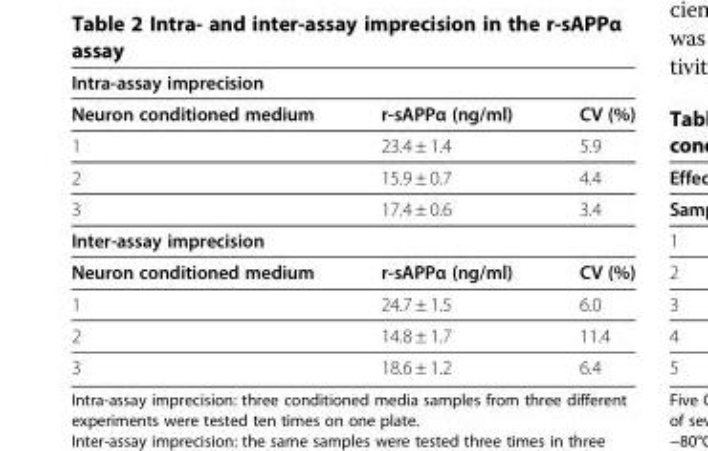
<table><thead><tr><td colspan="3">Intra-assay imprecision</td></tr><tr><td>Neuron conditioned medium</td><td>r-sAPPα (ng/ml)</td><td>CV (%)</td></tr></thead><tbody><tr><td>1</td><td>23.4 ± 1.4</td><td>5.9</td></tr><tr><td>2</td><td>15.9 ± 0.7</td><td>4.4</td></tr><tr><td>3</td><td>17.4 ± 0.6</td><td>3.4</td></tr><tr><td colspan="3">Inter-assay imprecision</td></tr><tr><td>Neuron conditioned medium</td><td>r-sAPPα (ng/ml)</td><td>CV (%)</td></tr><tr><td>1</td><td>24.7 ± 1.5</td><td>6.0</td></tr><tr><td>2</td><td>14.8 ± 1.7</td><td>11.4</td></tr><tr><td>3</td><td>18.6 ± 1.2</td><td>6.4</td></tr></tbody></table>